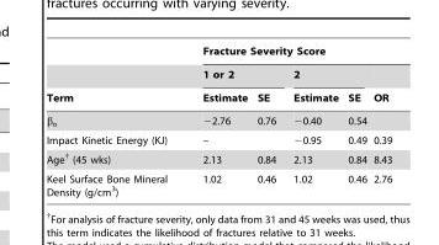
<table><thead><tr><td rowspan="3">Term</td><td colspan="5">Fracture Severity Score</td></tr><tr><td colspan="2">1 or 2</td><td colspan="2">2</td><td rowspan="2">OR</td></tr><tr><td>Estimate</td><td>SE</td><td>Estimate</td><td>SE</td></tr></thead><tbody><tr><td>β<sub>o</sub></td><td>−2.76</td><td>0.76</td><td>−0.40</td><td>0.54</td><td></td></tr><tr><td>Impact Kinetic Energy (KJ)</td><td colspan="2">–</td><td>−0.95</td><td>0.49</td><td>0.39</td></tr><tr><td>Age† (45 wks)</td><td>2.13</td><td>0.84</td><td>2.13</td><td>0.84</td><td>8.43</td></tr><tr><td>Keel Surface Bone Mineral Density (g/cm<sup>3</sup>)</td><td>1.02</td><td>0.46</td><td>1.02</td><td>0.46</td><td>2.76</td></tr></tbody></table>